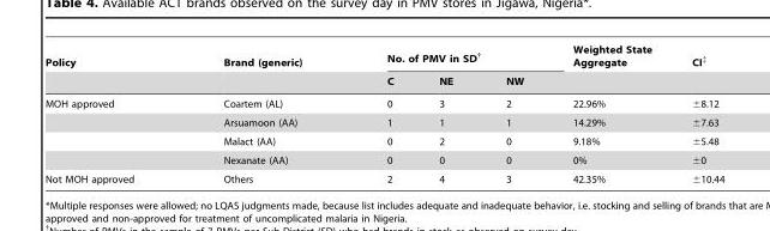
<table><thead><tr><td rowspan="2">Policy</td><td rowspan="2">Brand (generic)</td><td colspan="3">No. of PMV in SD†</td><td rowspan="2">Weighted State Aggregate</td><td rowspan="2">CI‡</td></tr><tr><td>C</td><td>NE</td><td>NW</td></tr></thead><tbody><tr><td rowspan="4">MOH approved</td><td>Coartem (AL)</td><td>0</td><td>3</td><td>2</td><td>22.96%</td><td>±8.12</td></tr><tr><td>Arsuamoon (AA)</td><td>1</td><td>1</td><td>1</td><td>14.29%</td><td>±7.63</td></tr><tr><td>Malact (AA)</td><td>0</td><td>2</td><td>0</td><td>9.18%</td><td>±5.48</td></tr><tr><td>Nexanate (AA)</td><td>0</td><td>0</td><td>0</td><td>0%</td><td>±0</td></tr><tr><td>Not MOH approved</td><td>Others</td><td>2</td><td>4</td><td>3</td><td>42.35%</td><td>±10.44</td></tr></tbody></table>